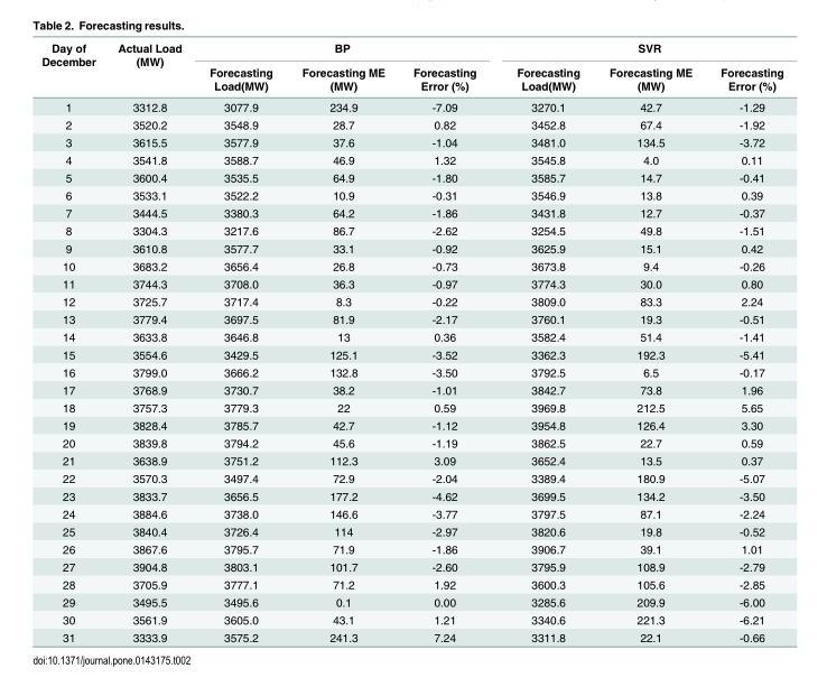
<table><thead><tr><td rowspan="2">Day of December</td><td rowspan="2">Actual Load (MW)</td><td colspan="3">BP</td><td colspan="3">SVR</td></tr><tr><td>Forecasting Load(MW)</td><td>Forecasting ME (MW)</td><td>Forecasting Error (%)</td><td>Forecasting Load(MW)</td><td>Forecasting ME (MW)</td><td>Forecasting Error (%)</td></tr></thead><tbody><tr><td>1</td><td>3312.8</td><td>3077.9</td><td>234.9</td><td>-7.09</td><td>3270.1</td><td>42.7</td><td>-1.29</td></tr><tr><td>2</td><td>3520.2</td><td>3548.9</td><td>28.7</td><td>0.82</td><td>3452.8</td><td>67.4</td><td>-1.92</td></tr><tr><td>3</td><td>3615.5</td><td>3577.9</td><td>37.6</td><td>-1.04</td><td>3481.0</td><td>134.5</td><td>-3.72</td></tr><tr><td>4</td><td>3541.8</td><td>3588.7</td><td>46.9</td><td>1.32</td><td>3545.8</td><td>4.0</td><td>0.11</td></tr><tr><td>5</td><td>3600.4</td><td>3535.5</td><td>64.9</td><td>-1.80</td><td>3585.7</td><td>14.7</td><td>-0.41</td></tr><tr><td>6</td><td>3533.1</td><td>3522.2</td><td>10.9</td><td>-0.31</td><td>3546.9</td><td>13.8</td><td>0.39</td></tr><tr><td>7</td><td>3444.5</td><td>3380.3</td><td>64.2</td><td>-1.86</td><td>3431.8</td><td>12.7</td><td>-0.37</td></tr><tr><td>8</td><td>3304.3</td><td>3217.6</td><td>86.7</td><td>-2.62</td><td>3254.5</td><td>49.8</td><td>-1.51</td></tr><tr><td>9</td><td>3610.8</td><td>3577.7</td><td>33.1</td><td>-0.92</td><td>3625.9</td><td>15.1</td><td>0.42</td></tr><tr><td>10</td><td>3683.2</td><td>3656.4</td><td>26.8</td><td>-0.73</td><td>3673.8</td><td>9.4</td><td>-0.26</td></tr><tr><td>11</td><td>3744.3</td><td>3708.0</td><td>36.3</td><td>-0.97</td><td>3774.3</td><td>30.0</td><td>0.80</td></tr><tr><td>12</td><td>3725.7</td><td>3717.4</td><td>8.3</td><td>-0.22</td><td>3809.0</td><td>83.3</td><td>2.24</td></tr><tr><td>13</td><td>3779.4</td><td>3697.5</td><td>81.9</td><td>-2.17</td><td>3760.1</td><td>19.3</td><td>-0.51</td></tr><tr><td>14</td><td>3633.8</td><td>3646.8</td><td>13</td><td>0.36</td><td>3582.4</td><td>51.4</td><td>-1.41</td></tr><tr><td>15</td><td>3554.6</td><td>3429.5</td><td>125.1</td><td>-3.52</td><td>3362.3</td><td>192.3</td><td>-5.41</td></tr><tr><td>16</td><td>3799.0</td><td>3666.2</td><td>132.8</td><td>-3.50</td><td>3792.5</td><td>6.5</td><td>-0.17</td></tr><tr><td>17</td><td>3768.9</td><td>3730.7</td><td>38.2</td><td>-1.01</td><td>3842.7</td><td>73.8</td><td>1.96</td></tr><tr><td>18</td><td>3757.3</td><td>3779.3</td><td>22</td><td>0.59</td><td>3969.8</td><td>212.5</td><td>5.65</td></tr><tr><td>19</td><td>3828.4</td><td>3785.7</td><td>42.7</td><td>-1.12</td><td>3954.8</td><td>126.4</td><td>3.30</td></tr><tr><td>20</td><td>3839.8</td><td>3794.2</td><td>45.6</td><td>-1.19</td><td>3862.5</td><td>22.7</td><td>0.59</td></tr><tr><td>21</td><td>3638.9</td><td>3751.2</td><td>112.3</td><td>3.09</td><td>3652.4</td><td>13.5</td><td>0.37</td></tr><tr><td>22</td><td>3570.3</td><td>3497.4</td><td>72.9</td><td>-2.04</td><td>3389.4</td><td>180.9</td><td>-5.07</td></tr><tr><td>23</td><td>3833.7</td><td>3656.5</td><td>177.2</td><td>-4.62</td><td>3699.5</td><td>134.2</td><td>-3.50</td></tr><tr><td>24</td><td>3884.6</td><td>3738.0</td><td>146.6</td><td>-3.77</td><td>3797.5</td><td>87.1</td><td>-2.24</td></tr><tr><td>25</td><td>3840.4</td><td>3726.4</td><td>114</td><td>-2.97</td><td>3820.6</td><td>19.8</td><td>-0.52</td></tr><tr><td>26</td><td>3867.6</td><td>3795.7</td><td>71.9</td><td>-1.86</td><td>3906.7</td><td>39.1</td><td>1.01</td></tr><tr><td>27</td><td>3904.8</td><td>3803.1</td><td>101.7</td><td>-2.60</td><td>3795.9</td><td>108.9</td><td>-2.79</td></tr><tr><td>28</td><td>3705.9</td><td>3777.1</td><td>71.2</td><td>1.92</td><td>3600.3</td><td>105.6</td><td>-2.85</td></tr><tr><td>29</td><td>3495.5</td><td>3495.6</td><td>0.1</td><td>0.00</td><td>3285.6</td><td>209.9</td><td>-6.00</td></tr><tr><td>30</td><td>3561.9</td><td>3605.0</td><td>43.1</td><td>1.21</td><td>3340.6</td><td>221.3</td><td>-6.21</td></tr><tr><td>31</td><td>3333.9</td><td>3575.2</td><td>241.3</td><td>7.24</td><td>3311.8</td><td>22.1</td><td>-0.66</td></tr></tbody></table>